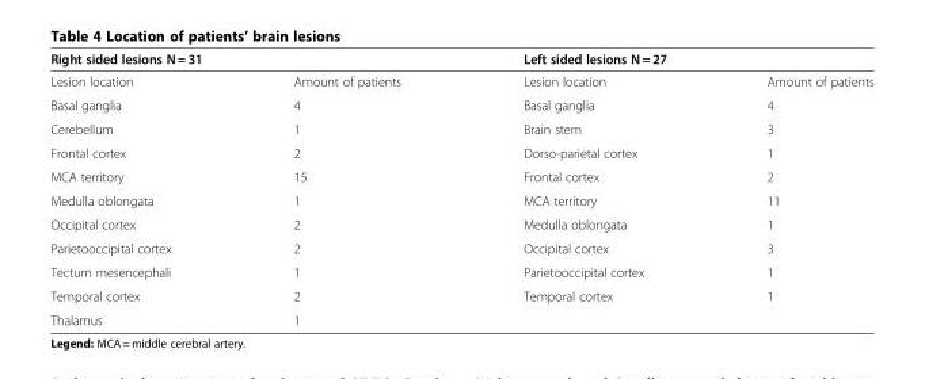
<table><thead><tr><td colspan="2">Right sided lesions N = 31</td><td colspan="2">Left sided lesions N = 27</td></tr><tr><td>Lesion location</td><td>Amount of patients</td><td>Lesion location</td><td>Amount of patients</td></tr></thead><tbody><tr><td>Basal ganglia</td><td>4</td><td>Basal ganglia</td><td>4</td></tr><tr><td>Cerebellum</td><td>1</td><td>Brain stem</td><td>3</td></tr><tr><td>Frontal cortex</td><td>2</td><td>Dorso-parietal cortex</td><td>1</td></tr><tr><td>MCA territory</td><td>15</td><td>Frontal cortex</td><td>2</td></tr><tr><td>Medulla oblongata</td><td>1</td><td>MCA territory</td><td>11</td></tr><tr><td>Occipital cortex</td><td>2</td><td>Medulla oblongata</td><td>1</td></tr><tr><td>Parietooccipital cortex</td><td>2</td><td>Occipital cortex</td><td>3</td></tr><tr><td>Tectum mesencephali</td><td>1</td><td>Parietooccipital cortex</td><td>1</td></tr><tr><td>Temporal cortex</td><td>2</td><td>Temporal cortex</td><td>1</td></tr><tr><td>Thalamus</td><td>1</td><td></td><td></td></tr></tbody></table>